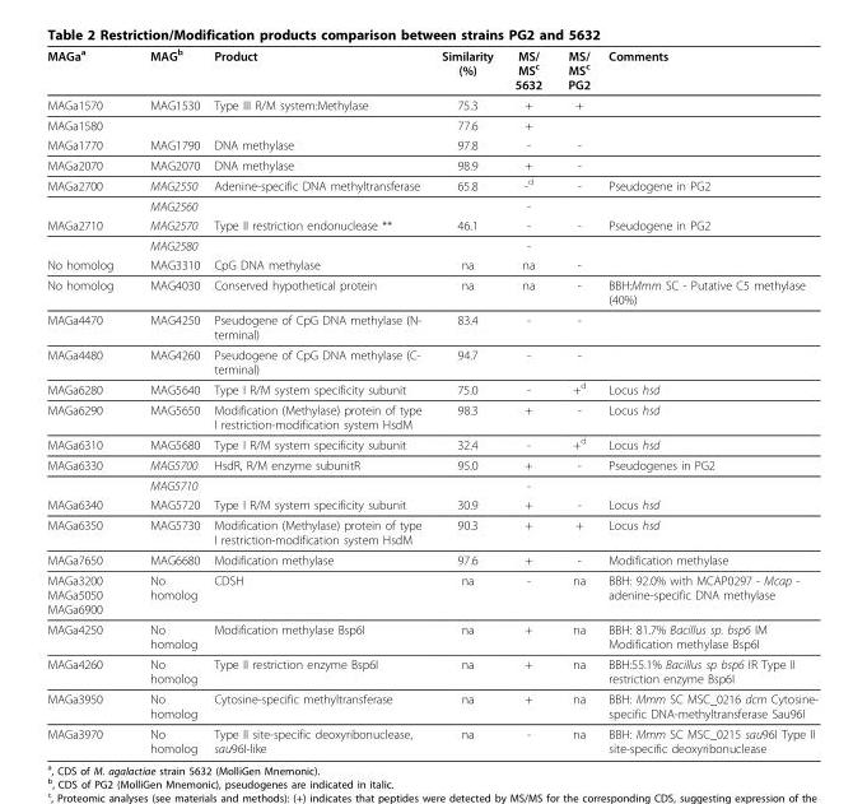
<table><thead><tr><td>MAGaa</td><td>MAGb</td><td>Product</td><td>Similarity (%)</td><td>MS/ MSc 5632</td><td>MS/ MSc PG2</td><td>Comments</td></tr></thead><tbody><tr><td>MAGa1570</td><td>MAG1530</td><td>Type III R/M system:Methylase</td><td>75.3</td><td>+</td><td>+</td><td></td></tr><tr><td>MAGa1580</td><td></td><td></td><td>77.6</td><td>+</td><td></td><td></td></tr><tr><td>MAGa1770</td><td>MAG1790</td><td>DNA methylase</td><td>97.8</td><td>-</td><td>-</td><td></td></tr><tr><td>MAGa2070</td><td>MAG2070</td><td>DNA methylase</td><td>98.9</td><td>+</td><td>-</td><td></td></tr><tr><td rowspan="2">MAGa2700</td><td>MAG2550</td><td>Adenine-specific DNA methyltransferase</td><td>65.8</td><td>-d</td><td>-</td><td>Pseudogene in PG2</td></tr><tr><td>MAG2560</td><td></td><td></td><td>-</td><td></td><td></td></tr><tr><td rowspan="2">MAGa2710</td><td>MAG2570</td><td>Type II restriction endonuclease **</td><td>46.1</td><td>-</td><td>-</td><td>Pseudogene in PG2</td></tr><tr><td>MAG2580</td><td></td><td></td><td>-</td><td></td><td></td></tr><tr><td>No homolog</td><td>MAG3310</td><td>CpG DNA methylase</td><td>na</td><td>na</td><td>-</td><td></td></tr><tr><td>No homolog</td><td>MAG4030</td><td>Conserved hypothetical protein</td><td>na</td><td>na</td><td>-</td><td>BBH:Mmm SC - Putative C5 methylase (40%)</td></tr><tr><td>MAGa4470</td><td>MAG4250</td><td>Pseudogene of CpG DNA methylase (N- terminal)</td><td>83.4</td><td>-</td><td>-</td><td></td></tr><tr><td>MAGa4480</td><td>MAG4260</td><td>Pseudogene of CpG DNA methylase (C- terminal)</td><td>94.7</td><td>-</td><td>-</td><td></td></tr><tr><td>MAGa6280</td><td>MAG5640</td><td>Type I R/M system specificity subunit</td><td>75.0</td><td>-</td><td>+d</td><td>Locus hsd</td></tr><tr><td>MAGa6290</td><td>MAG5650</td><td>Modification (Methylase) protein of type I restriction-modification system HsdM</td><td>98.3</td><td>+</td><td>-</td><td>Locus hsd</td></tr><tr><td>MAGa6310</td><td>MAG5680</td><td>Type I R/M system specificity subunit</td><td>32.4</td><td>-</td><td>+d</td><td>Locus hsd</td></tr><tr><td rowspan="2">MAGa6330</td><td>MAG5700</td><td>HsdR, R/M enzyme subunitR</td><td>95.0</td><td>+</td><td>-</td><td>Pseudogenes in PG2</td></tr><tr><td>MAG5710</td><td></td><td></td><td>-</td><td></td><td></td></tr><tr><td>MAGa6340</td><td>MAG5720</td><td>Type I R/M system specificity subunit</td><td>30.9</td><td>+</td><td>-</td><td>Locus hsd</td></tr><tr><td>MAGa6350</td><td>MAG5730</td><td>Modification (Methylase) protein of type I restriction-modification system HsdM</td><td>90.3</td><td>+</td><td>+</td><td>Locus hsd</td></tr><tr><td>MAGa7650</td><td>MAG6680</td><td>Modification methylase</td><td>97.6</td><td>+</td><td>-</td><td>Modification methylase</td></tr><tr><td>MAGa3200 MAGa5050 MAGa6900</td><td>No homolog</td><td>CDSH</td><td>na</td><td>-</td><td>na</td><td>BBH: 92.0% with MCAP0297 - Mcap - adenine-specific DNA methylase</td></tr><tr><td>MAGa4250</td><td>No homolog</td><td>Modification methylase Bsp6I</td><td>na</td><td>+</td><td>na</td><td>BBH: 81.7% Bacillus sp. bsp6 IM Modification methylase Bsp6I</td></tr><tr><td>MAGa4260</td><td>No homolog</td><td>Type II restriction enzyme Bsp6I</td><td>na</td><td>+</td><td>na</td><td>BBH:55.1% Bacillus sp bsp6 IR Type II restriction enzyme Bsp6I</td></tr><tr><td>MAGa3950</td><td>No homolog</td><td>Cytosine-specific methyltransferase</td><td>na</td><td>+</td><td>na</td><td>BBH: Mmm SC MSC_0216 dcm Cytosine- specific DNA-methyltransferase Sau96I</td></tr><tr><td>MAGa3970</td><td>No homolog</td><td>Type II site-specific deoxyribonuclease, sau96I-like</td><td>na</td><td>-</td><td>na</td><td>BBH: Mmm SC MSC_0215 sau96I Type II site-specific deoxyribonuclease</td></tr></tbody></table>